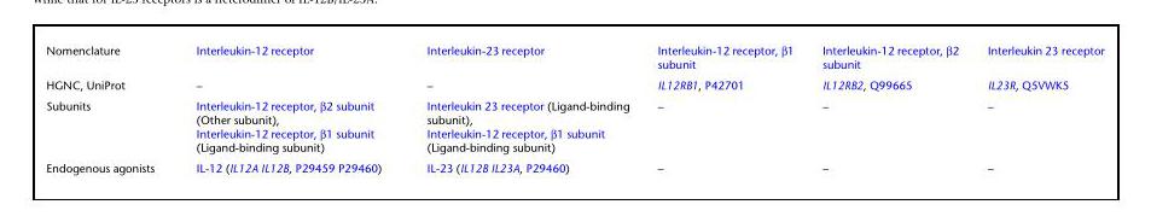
<table><tbody><tr><td>Nomenclature</td><td>Interleukin-12 receptor</td><td>Interleukin-23 receptor</td><td>Interleukin-12 receptor, β1 subunit</td><td>Interleukin-12 receptor, β2 subunit</td><td>Interleukin 23 receptor</td></tr><tr><td>HGNC, UniProt</td><td>–</td><td>–</td><td>IL12RB1, P42701</td><td>IL12RB2, Q99665</td><td>IL23R, Q5VWK5</td></tr><tr><td>Subunits</td><td>Interleukin-12 receptor, β2 subunit (Other subunit), Interleukin-12 receptor, β1 subunit (Ligand-binding subunit)</td><td>Interleukin 23 receptor (Ligand-binding subunit), Interleukin-12 receptor, β1 subunit (Ligand-binding subunit)</td><td>–</td><td>–</td><td>–</td></tr><tr><td>Endogenous agonists</td><td>IL-12 (IL12A IL12B, P29459 P29460)</td><td>IL-23 (IL12B IL23A, P29460)</td><td>–</td><td>–</td><td>–</td></tr></tbody></table>